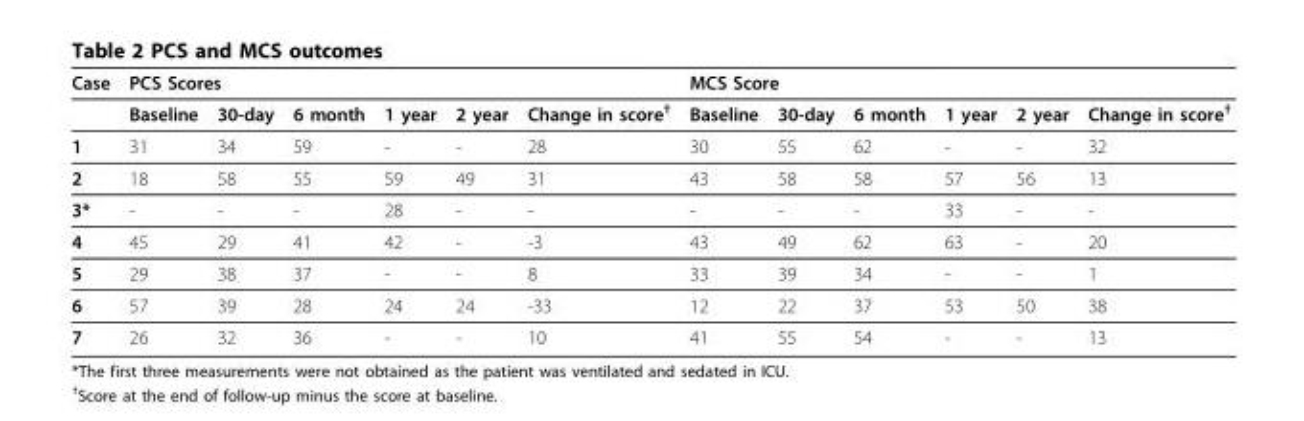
<table><thead><tr><td rowspan="2">Case</td><td colspan="6">PCS Scores</td><td colspan="6">MCS Score</td></tr><tr><td>Baseline</td><td>30-day</td><td>6 month</td><td>1 year</td><td>2 year</td><td>Change in score<sup>†</sup></td><td>Baseline</td><td>30-day</td><td>6 month</td><td>1 year</td><td>2 year</td><td>Change in score<sup>†</sup></td></tr></thead><tbody><tr><td>1</td><td>31</td><td>34</td><td>59</td><td>-</td><td>-</td><td>28</td><td>30</td><td>55</td><td>62</td><td>-</td><td>-</td><td>32</td></tr><tr><td>2</td><td>18</td><td>58</td><td>55</td><td>59</td><td>49</td><td>31</td><td>43</td><td>58</td><td>58</td><td>57</td><td>56</td><td>13</td></tr><tr><td>3*</td><td>-</td><td>-</td><td>-</td><td>28</td><td>-</td><td>-</td><td>-</td><td>-</td><td>-</td><td>33</td><td>-</td><td>-</td></tr><tr><td>4</td><td>45</td><td>29</td><td>41</td><td>42</td><td>-</td><td>-3</td><td>43</td><td>49</td><td>62</td><td>63</td><td>-</td><td>20</td></tr><tr><td>5</td><td>29</td><td>38</td><td>37</td><td>-</td><td>-</td><td>8</td><td>33</td><td>39</td><td>34</td><td>-</td><td>-</td><td>1</td></tr><tr><td>6</td><td>57</td><td>39</td><td>28</td><td>24</td><td>24</td><td>-33</td><td>12</td><td>22</td><td>37</td><td>53</td><td>50</td><td>38</td></tr><tr><td>7</td><td>26</td><td>32</td><td>36</td><td>-</td><td>-</td><td>10</td><td>41</td><td>55</td><td>54</td><td>-</td><td>-</td><td>13</td></tr></tbody></table>